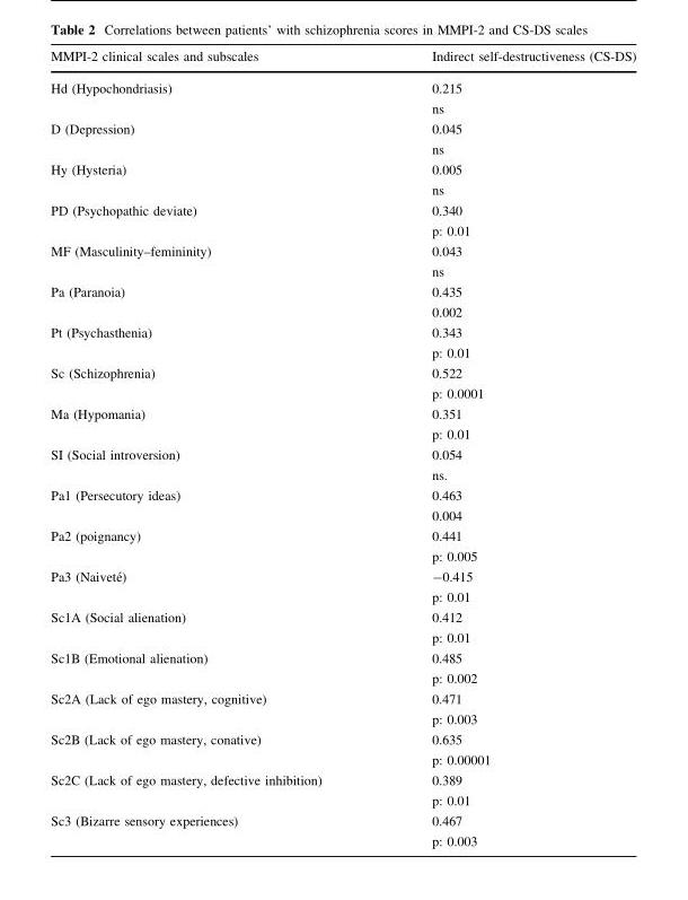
<table><thead><tr><td>MMPI-2 clinical scales and subscales</td><td>Indirect self-destructiveness (CS-DS)</td></tr></thead><tbody><tr><td rowspan="2">Hd (Hypochondriasis)</td><td>0.215</td></tr><tr><td>ns</td></tr><tr><td rowspan="2">D (Depression)</td><td>0.045</td></tr><tr><td>ns</td></tr><tr><td rowspan="2">Hy (Hysteria)</td><td>0.005</td></tr><tr><td>ns</td></tr><tr><td rowspan="2">PD (Psychopathic deviate)</td><td>0.340</td></tr><tr><td>p: 0.01</td></tr><tr><td rowspan="2">MF (Masculinity–femininity)</td><td>0.043</td></tr><tr><td>ns</td></tr><tr><td rowspan="2">Pa (Paranoia)</td><td>0.435</td></tr><tr><td>0.002</td></tr><tr><td rowspan="2">Pt (Psychasthenia)</td><td>0.343</td></tr><tr><td>p: 0.01</td></tr><tr><td rowspan="2">Sc (Schizophrenia)</td><td>0.522</td></tr><tr><td>p: 0.0001</td></tr><tr><td rowspan="2">Ma (Hypomania)</td><td>0.351</td></tr><tr><td>p: 0.01</td></tr><tr><td rowspan="2">SI (Social introversion)</td><td>0.054</td></tr><tr><td>ns.</td></tr><tr><td rowspan="2">Pa1 (Persecutory ideas)</td><td>0.463</td></tr><tr><td>0.004</td></tr><tr><td rowspan="2">Pa2 (poignancy)</td><td>0.441</td></tr><tr><td>p: 0.005</td></tr><tr><td rowspan="2">Pa3 (Naivete´)</td><td>-0.415</td></tr><tr><td>p: 0.01</td></tr><tr><td rowspan="2">Sc1A (Social alienation)</td><td>0.412</td></tr><tr><td>p: 0.01</td></tr><tr><td rowspan="2">Sc1B (Emotional alienation)</td><td>0.485</td></tr><tr><td>p: 0.002</td></tr><tr><td rowspan="2">Sc2A (Lack of ego mastery, cognitive)</td><td>0.471</td></tr><tr><td>p: 0.003</td></tr><tr><td rowspan="2">Sc2B (Lack of ego mastery, conative)</td><td>0.635</td></tr><tr><td>p: 0.00001</td></tr><tr><td rowspan="2">Sc2C (Lack of ego mastery, defective inhibition)</td><td>0.389</td></tr><tr><td>p: 0.01</td></tr><tr><td rowspan="2">Sc3 (Bizarre sensory experiences)</td><td>0.467</td></tr><tr><td>p: 0.003</td></tr></tbody></table>